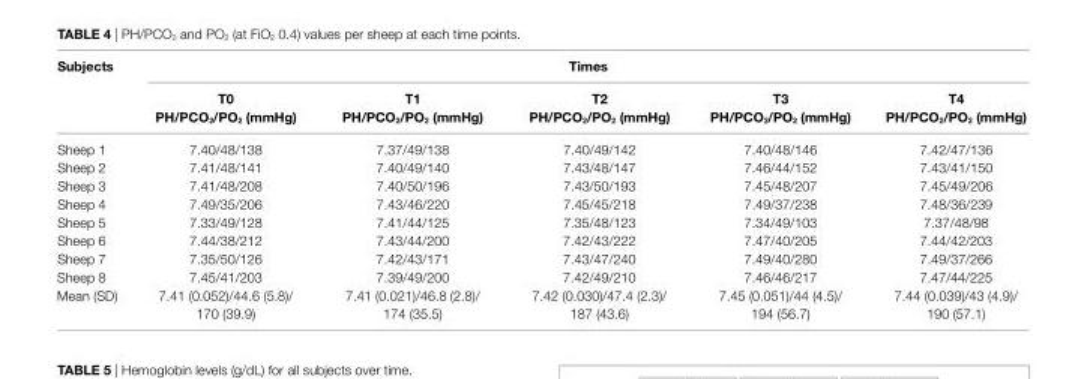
<table><thead><tr><td rowspan="2">subjects</td><td colspan="5">Times</td></tr><tr><td>T0 Ph/PcO<sub>2</sub>/PO<sub>2</sub> (mmhg)</td><td>T1 Ph/PcO<sub>2</sub>/PO<sub>2</sub> (mmhg)</td><td>T2 Ph/PcO<sub>2</sub>/PO<sub>2</sub> (mmhg)</td><td>T3 Ph/PcO<sub>2</sub>/PO<sub>2</sub> (mmhg)</td><td>T4 Ph/PcO<sub>2</sub>/PO<sub>2</sub> (mmhg)</td></tr></thead><tbody><tr><td>Sheep 1</td><td>7.40/48/138</td><td>7.37/49/138</td><td>7.40/49/142</td><td>7.40/48/146</td><td>7.42/47/136</td></tr><tr><td>Sheep 2</td><td>7.41/48/141</td><td>7.40/49/140</td><td>7.43/48/147</td><td>7.46/44/152</td><td>7.43/41/150</td></tr><tr><td>Sheep 3</td><td>7.41/48/208</td><td>7.40/50/196</td><td>7.43/50/193</td><td>7.45/48/207</td><td>7.45/49/206</td></tr><tr><td>Sheep 4</td><td>7.49/35/206</td><td>7.43/46/220</td><td>7.45/45/218</td><td>7.49/37/238</td><td>7.48/36/239</td></tr><tr><td>Sheep 5</td><td>7.33/49/128</td><td>7.41/44/125</td><td>7.35/48/123</td><td>7.34/49/103</td><td>7.37/48/98</td></tr><tr><td>Sheep 6</td><td>7.44/38/212</td><td>7.43/44/200</td><td>7.42/43/222</td><td>7.47/40/205</td><td>7.44/42/203</td></tr><tr><td>Sheep 7</td><td>7.35/50/126</td><td>7.42/43/171</td><td>7.43/47/240</td><td>7.49/40/280</td><td>7.49/37/266</td></tr><tr><td>Sheep 8</td><td>7.45/41/203</td><td>7.39/49/200</td><td>7.42/49/210</td><td>7.46/46/217</td><td>7.47/44/225</td></tr><tr><td>Mean (SD)</td><td>7.41 (0.052)/44.6 (5.8)/ 170 (39.9)</td><td>7.41 (0.021)/46.8 (2.8)/ 174 (35.5)</td><td>7.42 (0.030)/47.4 (2.3)/ 187 (43.6)</td><td>7.45 (0.051)/44 (4.5)/ 194 (56.7)</td><td>7.44 (0.039)/43 (4.9)/ 190 (57.1)</td></tr></tbody></table>